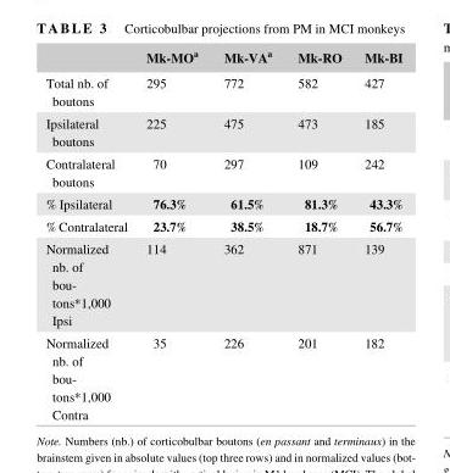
<table><thead><tr><td></td><td>Mk- MO<sup>a</sup></td><td>Mk- VA<sup>a</sup></td><td>Mk- RO</td><td>Mk- BI</td></tr></thead><tbody><tr><td>Total nb. of boutons</td><td>295</td><td>772</td><td>582</td><td>427</td></tr><tr><td>Ipsilateral boutons</td><td>225</td><td>475</td><td>473</td><td>185</td></tr><tr><td>Contralateral boutons</td><td>70</td><td>297</td><td>109</td><td>242</td></tr><tr><td>% Ipsilateral</td><td>76.3%</td><td>61.5%</td><td>81.3%</td><td>43.3%</td></tr><tr><td>% Contralateral</td><td>23.7%</td><td>38.5%</td><td>18.7%</td><td>56.7%</td></tr><tr><td>Normalized nb. of bou- tons*1,000 Ipsi</td><td>114</td><td>362</td><td>871</td><td>139</td></tr><tr><td>Normalized nb. of bou- tons*1,000 Contra</td><td>35</td><td>226</td><td>201</td><td>182</td></tr></tbody></table>